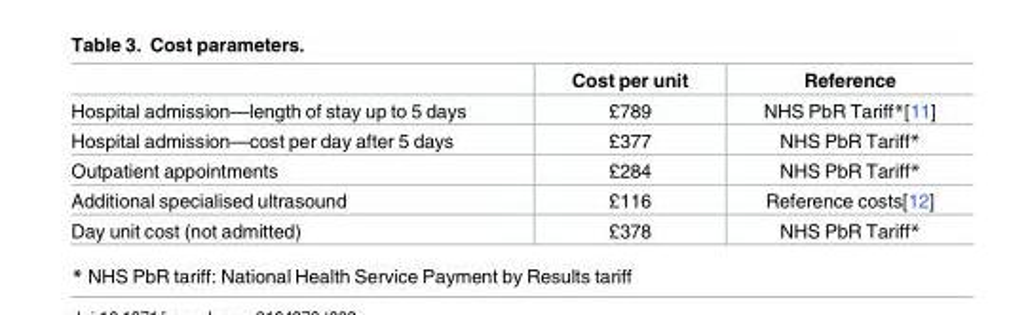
<table><thead><tr><td></td><td>Cost per unit</td><td>Reference</td></tr></thead><tbody><tr><td>Hospital admission—length of stay up to 5 days</td><td>£789</td><td>NHS PbR Tariff*[11]</td></tr><tr><td>Hospital admission—cost per day after 5 days</td><td>£377</td><td>NHS PbR Tariff*</td></tr><tr><td>Outpatient appointments</td><td>£284</td><td>NHS PbR Tariff*</td></tr><tr><td>Additional specialised ultrasound</td><td>£116</td><td>Reference costs[12]</td></tr><tr><td>Day unit cost (not admitted)</td><td>£378</td><td>NHS PbR Tariff*</td></tr></tbody></table>